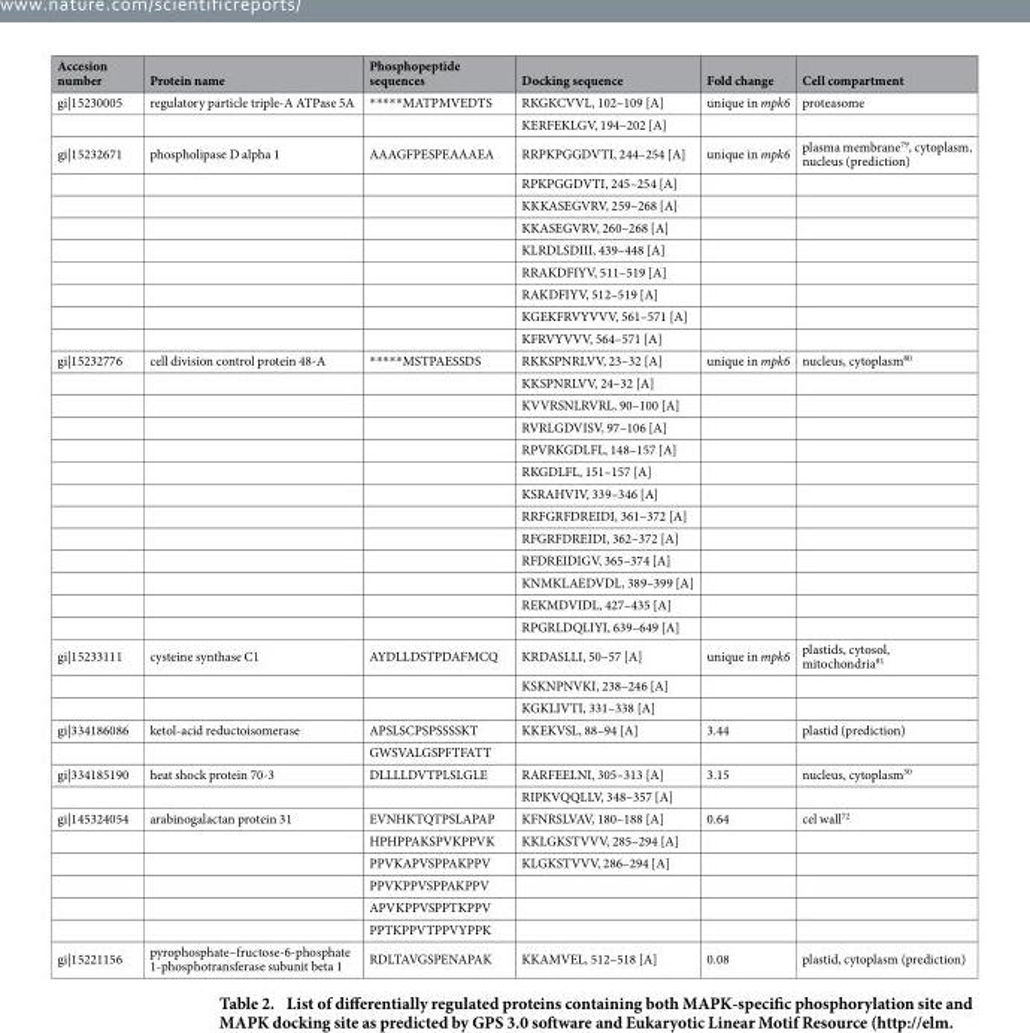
<table><thead><tr><td>Accesion number</td><td>Protein name</td><td>Phosphopeptide sequences</td><td>Docking sequence</td><td>Fold change</td><td>Cell compartment</td></tr></thead><tbody><tr><td rowspan="2">gi|15230005</td><td>regulatory particle triple-A ATPase 5A</td><td>* * * * * MATPMVEDTS</td><td>RKGKCVVL, 102–109 [A]</td><td>unique in mpk6</td><td>proteasome</td></tr><tr><td></td><td></td><td>KERFEKLGV, 194–202 [A]</td><td></td><td></td></tr><tr><td rowspan="9">gi|15232671</td><td>phospholipase D alpha 1</td><td>AAAGFPESPEAAAEA</td><td>RRPKPGGDVTI, 244–254 [A]</td><td>unique in mpk6</td><td>plasma membrane<sup>79</sup>, cytoplasm, nucleus (prediction)</td></tr><tr><td></td><td></td><td>RPKPGGDVTI, 245–254 [A]</td><td></td><td></td></tr><tr><td></td><td></td><td>KKKASEGVRV, 259–268 [A]</td><td></td><td></td></tr><tr><td></td><td></td><td>KKASEGVRV, 260–268 [A]</td><td></td><td></td></tr><tr><td></td><td></td><td>KLRDLSDIII, 439–448 [A]</td><td></td><td></td></tr><tr><td></td><td></td><td>RRAKDFIYV, 511–519 [A]</td><td></td><td></td></tr><tr><td></td><td></td><td>RAKDFIYV, 512–519 [A]</td><td></td><td></td></tr><tr><td></td><td></td><td>KGEKFRVYVVV, 561–571 [A]</td><td></td><td></td></tr><tr><td></td><td></td><td>KFRVYVVV, 564–571 [A]</td><td></td><td></td></tr><tr><td rowspan="13">gi|15232776</td><td>cell division control protein 48-A</td><td>* * * * * MSTPAESSDS</td><td>RKKSPNRLVV, 23–32 [A]</td><td>unique in mpk6</td><td>nucleus, cytoplasm<sup>80</sup></td></tr><tr><td></td><td></td><td>KKSPNRLVV, 24–32 [A]</td><td></td><td></td></tr><tr><td></td><td></td><td>KVVRSNLRVRL, 90–100 [A]</td><td></td><td></td></tr><tr><td></td><td></td><td>RVRLGDVISV, 97–106 [A]</td><td></td><td></td></tr><tr><td></td><td></td><td>RPVRKGDLFL, 148–157 [A]</td><td></td><td></td></tr><tr><td></td><td></td><td>RKGDLFL, 151–157 [A]</td><td></td><td></td></tr><tr><td></td><td></td><td>KSRAHVIV, 339–346 [A]</td><td></td><td></td></tr><tr><td></td><td></td><td>RRFGRFDREIDI, 361–372 [A]</td><td></td><td></td></tr><tr><td></td><td></td><td>RFGRFDREIDI, 362–372 [A]</td><td></td><td></td></tr><tr><td></td><td></td><td>RFDREIDIGV, 365–374 [A]</td><td></td><td></td></tr><tr><td></td><td></td><td>KNMKLAEDVDL, 389–399 [A]</td><td></td><td></td></tr><tr><td></td><td></td><td>REKMDVIDL, 427–435 [A]</td><td></td><td></td></tr><tr><td></td><td></td><td>RPGRLDQLIYI, 639–649 [A]</td><td></td><td></td></tr><tr><td rowspan="3">gi|15233111</td><td>cysteine synthase C1</td><td>AYDLLDSTPDAFMCQ</td><td>KRDASLLI, 50–57 [A]</td><td>unique in mpk6</td><td>plastids, cytosol, mitochondria<sup>81</sup></td></tr><tr><td></td><td></td><td>KSKNPNVKI, 238–246 [A]</td><td></td><td></td></tr><tr><td></td><td></td><td>KGKLIVTI, 331–338 [A]</td><td></td><td></td></tr><tr><td rowspan="2">gi|334186086</td><td>ketol-acid reductoisomerase</td><td>APSLSCPSPSSSSKT</td><td>KKEKVSL, 88–94 [A]</td><td>3.44</td><td>plastid (prediction)</td></tr><tr><td></td><td>GWSVALGSPFTFATT</td><td></td><td></td><td></td></tr><tr><td rowspan="2">gi|334185190</td><td>heat shock protein 70-3</td><td>DLLLLDVTPLSLGLE</td><td>RARFEELNI, 305–313 [A]</td><td>3.15</td><td>nucleus, cytoplasm<sup>30</sup></td></tr><tr><td></td><td></td><td>RIPKVQQLLV, 348–357 [A]</td><td></td><td></td></tr><tr><td rowspan="6">gi|145324054</td><td>arabinogalactan protein 31</td><td>EVNHKTQTPSLAPAP</td><td>KFNRSLVAV, 180–188 [A]</td><td>0.64</td><td>cel wall<sup>72</sup></td></tr><tr><td></td><td>HPHPPAKSPVKPPVK</td><td>KKLGKSTVVV, 285–294 [A]</td><td></td><td></td></tr><tr><td></td><td>PPVKAPVSPPAKPPV</td><td>KLGKSTVVV, 286–294 [A]</td><td></td><td></td></tr><tr><td></td><td>PPVKPPVSPPAKPPV</td><td></td><td></td><td></td></tr><tr><td></td><td>APVKPPVSPPTKPPV</td><td></td><td></td><td></td></tr><tr><td></td><td>PPTKPPVTPPVYPPK</td><td></td><td></td><td></td></tr><tr><td>gi|15221156</td><td>pyrophosphate–fructose-6-phosphate 1-phosphotransferase subunit beta 1</td><td>RDLTAVGSPENAPAK</td><td>KKAMVEL, 512–518 [A]</td><td>0.08</td><td>plastid, cytoplasm (prediction)</td></tr></tbody></table>